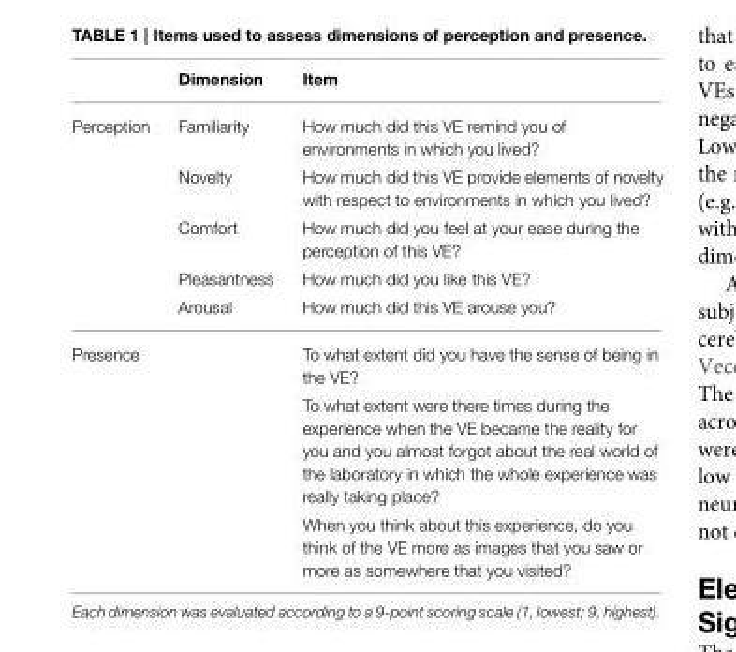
<table><thead><tr><td></td><td>Dimension</td><td>Item</td></tr></thead><tbody><tr><td rowspan="5">Perception</td><td>Familiarity</td><td>How much did this VE remind you of environments in which you lived?</td></tr><tr><td>Novelty</td><td>How much did this VE provide elements of novelty with respect to environments in which you lived?</td></tr><tr><td>Comfort</td><td>How much did you feel at your ease during the perception of this VE?</td></tr><tr><td>Pleasantness</td><td>How much did you like this VE?</td></tr><tr><td>Arousal</td><td>How much did this VE arouse you?</td></tr><tr><td rowspan="3">Presence</td><td></td><td>To what extent did you have the sense of being in the VE?</td></tr><tr><td></td><td>To what extent were there times during the experience when the VE became the reality for you and you almost forgot about the real world of the laboratory in which the whole experience was really taking place?</td></tr><tr><td></td><td>When you think about this experience, do you think of the VE more as images that you saw or more as somewhere that you visited?</td></tr></tbody></table>